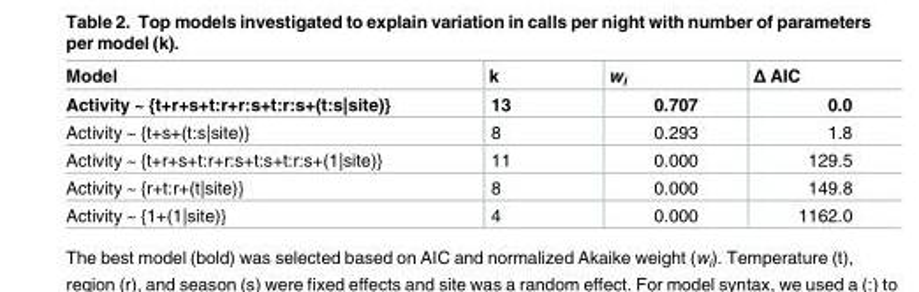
<table><thead><tr><td>Model</td><td>k</td><td>w<sub>i</sub></td><td>Δ AIC</td></tr></thead><tbody><tr><td>Activity ~ {t+r+s+t:r+r:s+t:r:s+(t:s|site)}</td><td>13</td><td>0.707</td><td>0.0</td></tr><tr><td>Activity ~ {t+s+(t:s|site)}</td><td>8</td><td>0.293</td><td>1.8</td></tr><tr><td>Activity ~ {t+r+s+t:r+r:s+t:s+t:r:s+(1|site)}</td><td>11</td><td>0.000</td><td>129.5</td></tr><tr><td>Activity ~ {r+t:r+(t|site)}</td><td>8</td><td>0.000</td><td>149.8</td></tr><tr><td>Activity ~ {1+(1|site)}</td><td>4</td><td>0.000</td><td>1162.0</td></tr></tbody></table>